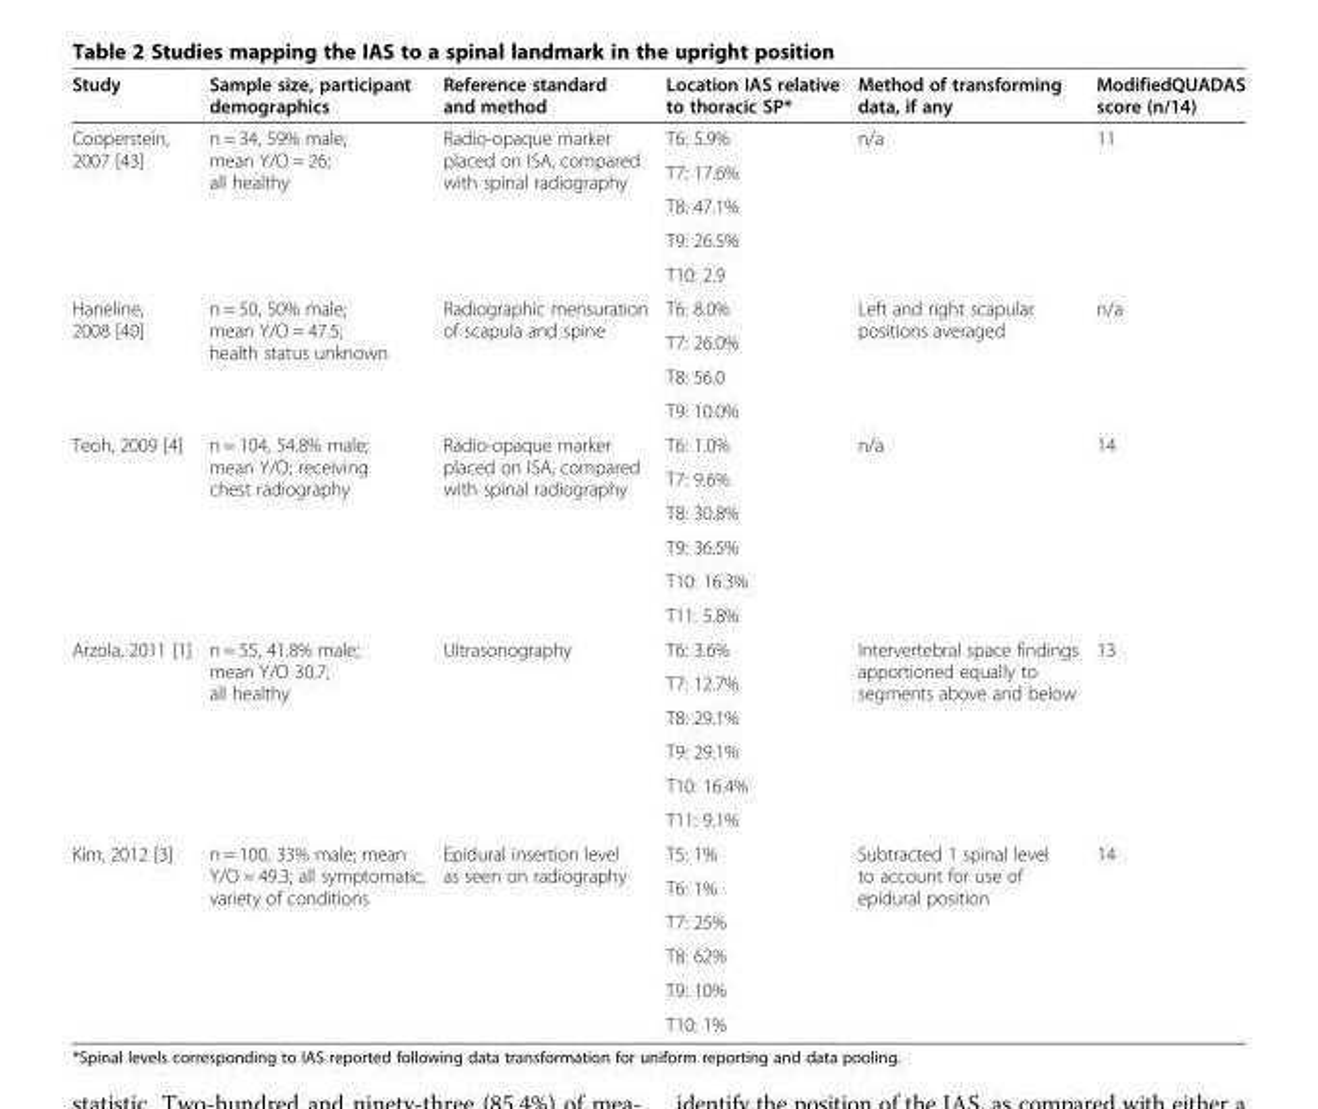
<table><thead><tr><td>Study</td><td>Sample size, participant demographics</td><td>Reference standard and method</td><td>Location IAS relative to thoracic SP*</td><td>Method of transforming data, if any</td><td>ModifiedQUADAS score (n/14)</td></tr></thead><tbody><tr><td rowspan="5">Cooperstein, 2007 [43]</td><td rowspan="5">n = 34, 59% male; mean Y/O = 26; all healthy</td><td rowspan="5">Radio-opaque marker placed on ISA, compared with spinal radiography</td><td>T6: 5.9%</td><td rowspan="5">n/a</td><td rowspan="5">11</td></tr><tr><td>T7: 17.6%</td></tr><tr><td>T8: 47.1%</td></tr><tr><td>T9: 26.5%</td></tr><tr><td>T10: 2.9</td></tr><tr><td rowspan="4">Haneline, 2008 [40]</td><td rowspan="4">n = 50, 50% male; mean Y/O = 47.5; health status unknown</td><td rowspan="4">Radiographic mensuration of scapula and spine</td><td>T6: 8.0%</td><td rowspan="4">Left and right scapular positions averaged</td><td rowspan="4">n/a</td></tr><tr><td>T7: 26.0%</td></tr><tr><td>T8: 56.0</td></tr><tr><td>T9: 10.0%</td></tr><tr><td rowspan="6">Teoh, 2009 [4]</td><td rowspan="6">n = 104, 54.8% male; mean Y/O; receiving chest radiography</td><td rowspan="6">Radio-opaque marker placed on ISA, compared with spinal radiography</td><td>T6: 1.0%</td><td rowspan="6">n/a</td><td rowspan="6">14</td></tr><tr><td>T7: 9.6%</td></tr><tr><td>T8: 30.8%</td></tr><tr><td>T9: 36.5%</td></tr><tr><td>T10: 16.3%</td></tr><tr><td>T11: 5.8%</td></tr><tr><td rowspan="6">Arzola, 2011 [1]</td><td rowspan="6">n = 55, 41.8% male; mean Y/O 30.7; all healthy</td><td rowspan="6">Ultrasonography</td><td>T6: 3.6%</td><td rowspan="6">Intervertebral space findings apportioned equally to segments above and below</td><td rowspan="6">13</td></tr><tr><td>T7: 12.7%</td></tr><tr><td>T8: 29.1%</td></tr><tr><td>T9: 29.1%</td></tr><tr><td>T10: 16.4%</td></tr><tr><td>T11: 9.1%</td></tr><tr><td rowspan="6">Kim, 2012 [3]</td><td rowspan="6">n = 100, 33% male; mean Y/O = 49.3; all symptomatic, variety of conditions</td><td rowspan="6">Epidural insertion level as seen on radiography</td><td>T5: 1%</td><td rowspan="6">Subtracted 1 spinal level to account for use of epidural position</td><td rowspan="6">14</td></tr><tr><td>T6: 1%</td></tr><tr><td>T7: 25%</td></tr><tr><td>T8: 62%</td></tr><tr><td>T9: 10%</td></tr><tr><td>T10: 1%</td></tr></tbody></table>